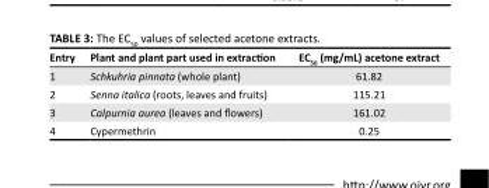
<table><thead><tr><td>Entry</td><td>Plant and plant part used in extraction</td><td>EC<sub>50</sub> (mg/mL) acetone extract</td></tr></thead><tbody><tr><td>1</td><td>Schkuhria pinnata (whole plant)</td><td>61.82</td></tr><tr><td>2</td><td>Senna italica (roots, leaves and fruits)</td><td>115.21</td></tr><tr><td>3</td><td>Calpurnia aurea (leaves and flowers)</td><td>161.02</td></tr><tr><td>4</td><td>Cypermethrin</td><td>0.25</td></tr></tbody></table>